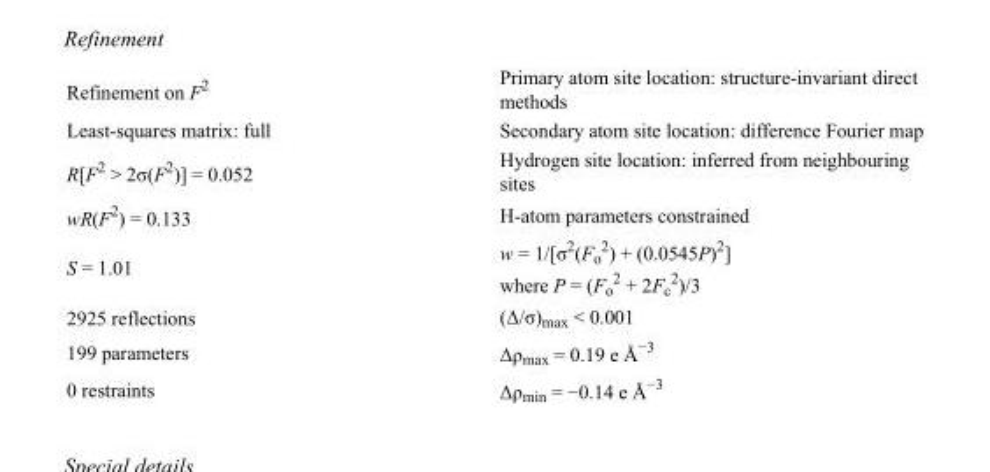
<table><tbody><tr><td>Refinement on F<sup>2</sup></td><td>Primary atom site location: structure-invariant direct methods</td></tr><tr><td>Least-squares matrix: full</td><td>Secondary atom site location: difference Fourier map</td></tr><tr><td>R[F<sup>2</sup> &gt; 2σ(F<sup>2</sup>)] = 0.052</td><td>Hydrogen site location: inferred from neighbouring sites</td></tr><tr><td>wR(F<sup>2</sup>) = 0.133</td><td>H-atom parameters constrained</td></tr><tr><td>S = 1.01</td><td>w = 1/[σ<sup>2</sup>(F<sub>o</sub> <sup>2</sup>) + (0.0545P)<sup>2</sup>] where P = (F<sub>o</sub> <sup>2</sup> + 2F<sub>c</sub> <sup>2</sup>)/3</td></tr><tr><td>2925 reflections</td><td>(Δ/σ)<sub>max</sub> &lt; 0.001</td></tr><tr><td>199 parameters</td><td>Δρ<sub>max</sub> = 0.19 e Å<sup>−3</sup></td></tr><tr><td>0 restraints</td><td>Δρ<sub>min</sub> = −0.14 e Å<sup>−3</sup></td></tr></tbody></table>